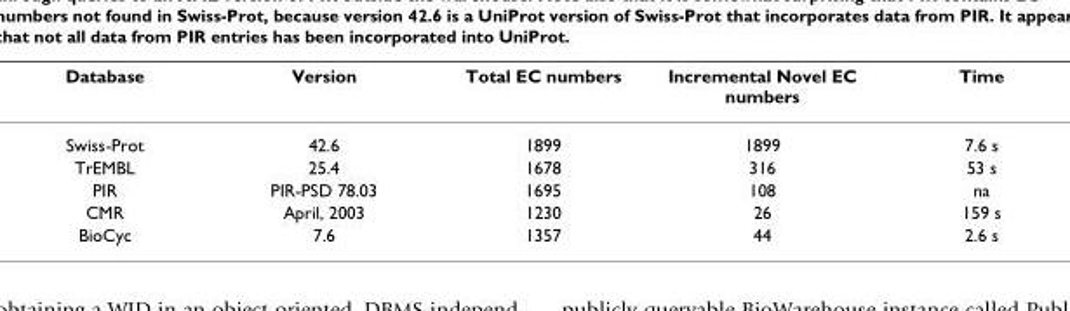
<table><thead><tr><td>Database</td><td>Version</td><td>Total EC numbers</td><td>Incremental Novel EC numbers</td><td>Time</td></tr></thead><tbody><tr><td>Swiss-Prot</td><td>42.6</td><td>1899</td><td>1899</td><td>7.6 s</td></tr><tr><td>TrEMBL</td><td>25.4</td><td>1678</td><td>316</td><td>53 s</td></tr><tr><td>PIR</td><td>PIR-PSD 78.03</td><td>1695</td><td>108</td><td>na</td></tr><tr><td>CMR</td><td>April, 2003</td><td>1230</td><td>26</td><td>159 s</td></tr><tr><td>BioCyc</td><td>7.6</td><td>1357</td><td>44</td><td>2.6 s</td></tr></tbody></table>